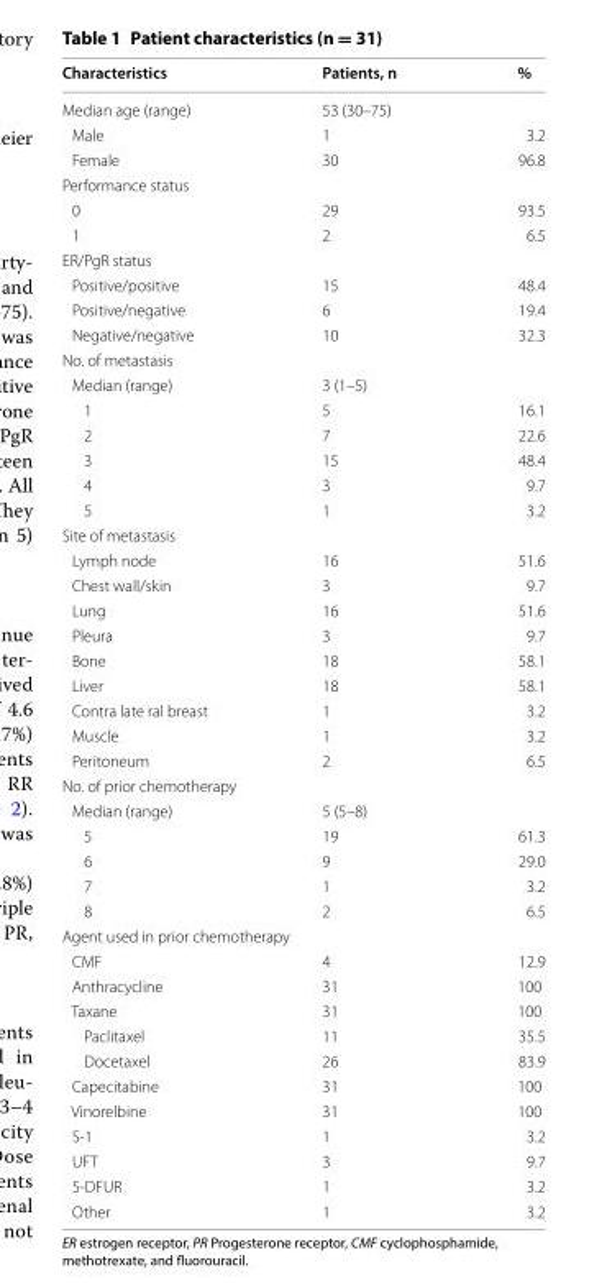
<table><thead><tr><td>Characteristics</td><td>Patients, n</td><td>%</td></tr></thead><tbody><tr><td>Median age (range)</td><td>53 (30–75)</td><td></td></tr><tr><td>Male</td><td>1</td><td>3.2</td></tr><tr><td>Female</td><td>30</td><td>96.8</td></tr><tr><td colspan="3">Performance status</td></tr><tr><td>0</td><td>29</td><td>93.5</td></tr><tr><td>1</td><td>2</td><td>6.5</td></tr><tr><td colspan="3">ER/PgR status</td></tr><tr><td>Positive/positive</td><td>15</td><td>48.4</td></tr><tr><td>Positive/negative</td><td>6</td><td>19.4</td></tr><tr><td>Negative/negative</td><td>10</td><td>32.3</td></tr><tr><td colspan="3">No. of metastasis</td></tr><tr><td>Median (range)</td><td>3 (1–5)</td><td></td></tr><tr><td>1</td><td>5</td><td>16.1</td></tr><tr><td>2</td><td>7</td><td>22.6</td></tr><tr><td>3</td><td>15</td><td>48.4</td></tr><tr><td>4</td><td>3</td><td>9.7</td></tr><tr><td>5</td><td>1</td><td>3.2</td></tr><tr><td colspan="3">Site of metastasis</td></tr><tr><td>Lymph node</td><td>16</td><td>51.6</td></tr><tr><td>Chest wall/skin</td><td>3</td><td>9.7</td></tr><tr><td>Lung</td><td>16</td><td>51.6</td></tr><tr><td>Pleura</td><td>3</td><td>9.7</td></tr><tr><td>Bone</td><td>18</td><td>58.1</td></tr><tr><td>Liver</td><td>18</td><td>58.1</td></tr><tr><td>Contra late ral breast</td><td>1</td><td>3.2</td></tr><tr><td>Muscle</td><td>1</td><td>3.2</td></tr><tr><td>Peritoneum</td><td>2</td><td>6.5</td></tr><tr><td colspan="3">No. of prior chemotherapy</td></tr><tr><td>Median (range)</td><td>5 (5–8)</td><td></td></tr><tr><td>5</td><td>19</td><td>61.3</td></tr><tr><td>6</td><td>9</td><td>29.0</td></tr><tr><td>7</td><td>1</td><td>3.2</td></tr><tr><td>8</td><td>2</td><td>6.5</td></tr><tr><td colspan="3">Agent used in prior chemotherapy</td></tr><tr><td>CMF</td><td>4</td><td>12.9</td></tr><tr><td>Anthracycline</td><td>31</td><td>100</td></tr><tr><td>Taxane</td><td>31</td><td>100</td></tr><tr><td>Paclitaxel</td><td>11</td><td>35.5</td></tr><tr><td>Docetaxel</td><td>26</td><td>83.9</td></tr><tr><td>Capecitabine</td><td>31</td><td>100</td></tr><tr><td>Vinorelbine</td><td>31</td><td>100</td></tr><tr><td>S-1</td><td>1</td><td>3.2</td></tr><tr><td>UFT</td><td>3</td><td>9.7</td></tr><tr><td>5-DFUR</td><td>1</td><td>3.2</td></tr><tr><td>Other</td><td>1</td><td>3.2</td></tr></tbody></table>